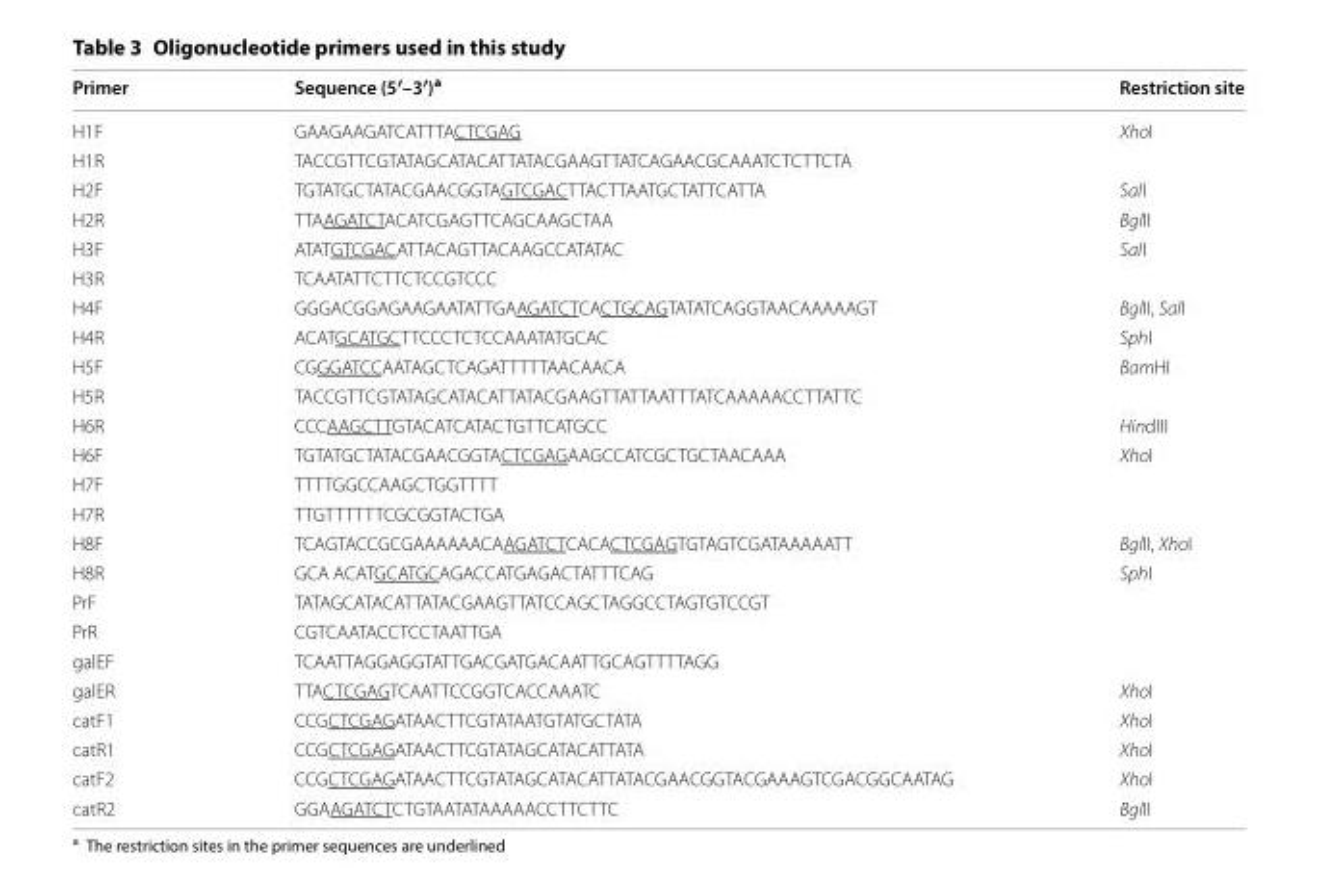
<table><thead><tr><td>Primer</td><td>Sequence (5′–3′)<sup>a</sup></td><td>Restriction site</td></tr></thead><tbody><tr><td>H1F</td><td>GAA GAA GAT CAT TTA CTC GAG</td><td>XhoI</td></tr><tr><td>H1R</td><td>TAC CGT TCG TAT AGC ATA CAT TAT ACG AAG TTA TCA GAA CGC AAA TCT CTT CTA</td><td></td></tr><tr><td>H2F</td><td>TGT ATG CTA TAC GAA CGG TAGTC GAC TTA CTT AAT GCT ATT CAT TA</td><td>SalI</td></tr><tr><td>H2R</td><td>TTA AGA TCT ACA TCG AGT TCA GCA AGC TAA</td><td>BglII</td></tr><tr><td>H3F</td><td>ATAT GTC GAC ATT ACA GTT ACA AGC CAT ATAC</td><td>SalI</td></tr><tr><td>H3R</td><td>TCA ATA TTC TTC TCC GTC CC</td><td></td></tr><tr><td>H4F</td><td>GGG ACG GAG AAG AAT ATT GAAGA TCT CACTG CAG TAT ATC AGG TAA CAA AAA GT</td><td>BglII, SalI</td></tr><tr><td>H4R</td><td>ACAT GCA TGC TTC CCT CTC CAA ATA TGC AC</td><td>SphI</td></tr><tr><td>H5F</td><td>CGGGA TCC AAT AGC TCA GAT TTT TAA CAACA</td><td>BamHI</td></tr><tr><td>H5R</td><td>TAC CGT TCG TAT AGC ATA CAT TAT ACG AAG TTA TTA ATT TAT CAA AAA CCT TAT TC</td><td></td></tr><tr><td>H6R</td><td>CCC AAG CTT GTA CAT CAT ACT GTT CAT GCC</td><td>HindIII</td></tr><tr><td>H6F</td><td>TGT ATG CTA TAC GAA CGG TACTC GAG AAG CCA TCG CTG CTA ACA AA</td><td>XhoI</td></tr><tr><td>H7F</td><td>TTT TGG CCA AGC TGG TTT T</td><td></td></tr><tr><td>H7R</td><td>TTG TTT TTT CGC GGT ACT GA</td><td></td></tr><tr><td>H8F</td><td>TCA GTA CCG CGA AAA AAC AAGA TCT CACA CTC GAG TGT AGT CGA TAA AAATT</td><td>BglII, XhoI</td></tr><tr><td>H8R</td><td>GCA ACAT GCA TGC AGA CCA TGA GAC TAT TTC AG</td><td>SphI</td></tr><tr><td>PrF</td><td>TAT AGC ATA CAT TAT ACG AAG TTA TCC AGC TAG GCC TAG TGT CCGT</td><td></td></tr><tr><td>PrR</td><td>CGT CAA TAC CTC CTA ATT GA</td><td></td></tr><tr><td>galEF</td><td>TCA ATT AGG AGG TAT TGA CGA TGA CAA TTG CAG TTT TAGG</td><td></td></tr><tr><td>galER</td><td>TTA CTC GAG TCA ATT CCG GTC ACC AAA TC</td><td>XhoI</td></tr><tr><td>catF1</td><td>CCG CTC GAG ATA ACT TCG TAT AAT GTA TGC TAT A</td><td>XhoI</td></tr><tr><td>catR1</td><td>CCG CTC GAG ATA ACT TCG TAT AGC ATA CAT TAT A</td><td>XhoI</td></tr><tr><td>catF2</td><td>CCG CTC GAG ATA ACT TCG TAT AGC ATA CAT TAT ACG AAC GGT ACG AAA GTC GAC GGC AATAG</td><td>XhoI</td></tr><tr><td>catR2</td><td>GGA AGA TCT CTG TAA TAT AAA AAC CTT CTTC</td><td>BglII</td></tr></tbody></table>